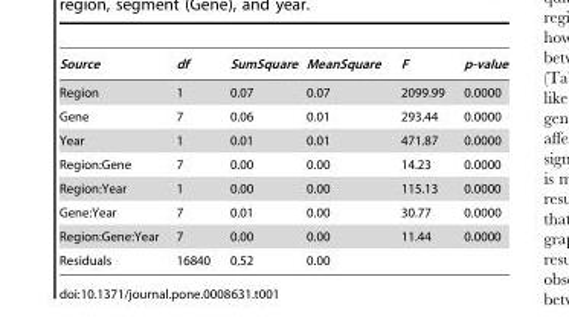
<table><thead><tr><td>Source</td><td>df</td><td>SumSquare</td><td>MeanSquare</td><td>F</td><td>p-value</td></tr></thead><tbody><tr><td>Region</td><td>1</td><td>0.07</td><td>0.07</td><td>2099.99</td><td>0.0000</td></tr><tr><td>Gene</td><td>7</td><td>0.06</td><td>0.01</td><td>293.44</td><td>0.0000</td></tr><tr><td>Year</td><td>1</td><td>0.01</td><td>0.01</td><td>471.87</td><td>0.0000</td></tr><tr><td>Region:Gene</td><td>7</td><td>0.00</td><td>0.00</td><td>14.23</td><td>0.0000</td></tr><tr><td>Region:Year</td><td>1</td><td>0.00</td><td>0.00</td><td>115.13</td><td>0.0000</td></tr><tr><td>Gene:Year</td><td>7</td><td>0.01</td><td>0.00</td><td>30.77</td><td>0.0000</td></tr><tr><td>Region:Gene:Year</td><td>7</td><td>0.00</td><td>0.00</td><td>11.44</td><td>0.0000</td></tr><tr><td>Residuals</td><td>16840</td><td>0.52</td><td>0.00</td><td></td><td></td></tr></tbody></table>